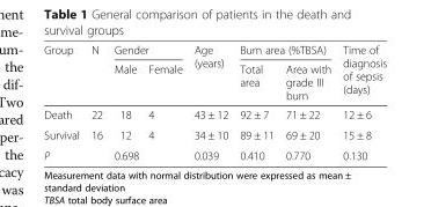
<table><thead><tr><td rowspan="2">Group</td><td rowspan="2">N</td><td colspan="2">Gender</td><td rowspan="2">Age (years)</td><td colspan="2">Burn area (%TBSA)</td><td rowspan="2">Time of diagnosis of sepsis (days)</td></tr><tr><td>Male</td><td>Female</td><td>Total area</td><td>Area with grade III burn</td></tr></thead><tbody><tr><td>Death</td><td>22</td><td>18</td><td>4</td><td>43 ± 12</td><td>92 ± 7</td><td>71 ± 22</td><td>12 ± 6</td></tr><tr><td>Survival</td><td>16</td><td>12</td><td>4</td><td>34 ± 10</td><td>89 ± 11</td><td>69 ± 20</td><td>15 ± 8</td></tr><tr><td colspan="2">P</td><td colspan="2">0.698</td><td>0.039</td><td>0.410</td><td>0.770</td><td>0.130</td></tr></tbody></table>